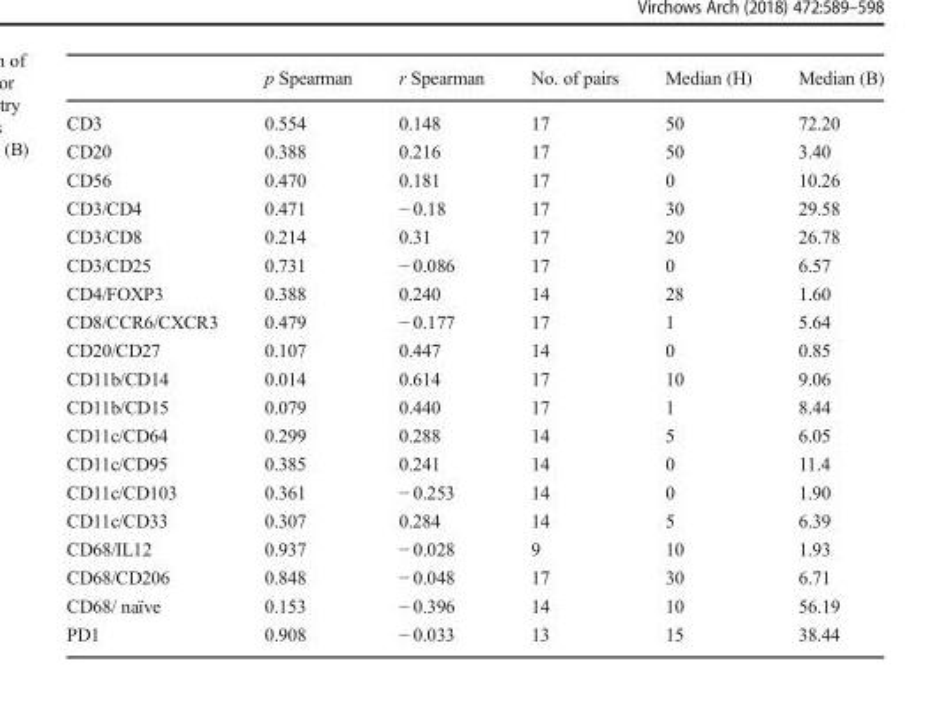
<table><thead><tr><td></td><td>p Spearman</td><td>r Spearman</td><td>No. of pairs</td><td>Median (H)</td><td>Median (B)</td></tr></thead><tbody><tr><td>CD3</td><td>0.554</td><td>0.148</td><td>17</td><td>50</td><td>72.20</td></tr><tr><td>CD20</td><td>0.388</td><td>0.216</td><td>17</td><td>50</td><td>3.40</td></tr><tr><td>CD56</td><td>0.470</td><td>0.181</td><td>17</td><td>0</td><td>10.26</td></tr><tr><td>CD3/CD4</td><td>0.471</td><td>− 0.18</td><td>17</td><td>30</td><td>29.58</td></tr><tr><td>CD3/CD8</td><td>0.214</td><td>0.31</td><td>17</td><td>20</td><td>26.78</td></tr><tr><td>CD3/CD25</td><td>0.731</td><td>− 0.086</td><td>17</td><td>0</td><td>6.57</td></tr><tr><td>CD4/FOXP3</td><td>0.388</td><td>0.240</td><td>14</td><td>28</td><td>1.60</td></tr><tr><td>CD8/CCR6/CXCR3</td><td>0.479</td><td>− 0.177</td><td>17</td><td>1</td><td>5.64</td></tr><tr><td>CD20/CD27</td><td>0.107</td><td>0.447</td><td>14</td><td>0</td><td>0.85</td></tr><tr><td>CD11b/CD14</td><td>0.014</td><td>0.614</td><td>17</td><td>10</td><td>9.06</td></tr><tr><td>CD11b/CD15</td><td>0.079</td><td>0.440</td><td>17</td><td>1</td><td>8.44</td></tr><tr><td>CD11c/CD64</td><td>0.299</td><td>0.288</td><td>14</td><td>5</td><td>6.05</td></tr><tr><td>CD11c/CD95</td><td>0.385</td><td>0.241</td><td>14</td><td>0</td><td>11.4</td></tr><tr><td>CD11c/CD103</td><td>0.361</td><td>− 0.253</td><td>14</td><td>0</td><td>1.90</td></tr><tr><td>CD11c/CD33</td><td>0.307</td><td>0.284</td><td>14</td><td>5</td><td>6.39</td></tr><tr><td>CD68/IL12</td><td>0.937</td><td>− 0.028</td><td>9</td><td>10</td><td>1.93</td></tr><tr><td>CD68/CD206</td><td>0.848</td><td>− 0.048</td><td>17</td><td>30</td><td>6.71</td></tr><tr><td>CD68/ naïve</td><td>0.153</td><td>− 0.396</td><td>14</td><td>10</td><td>56.19</td></tr><tr><td>PD1</td><td>0.908</td><td>− 0.033</td><td>13</td><td>15</td><td>38.44</td></tr></tbody></table>